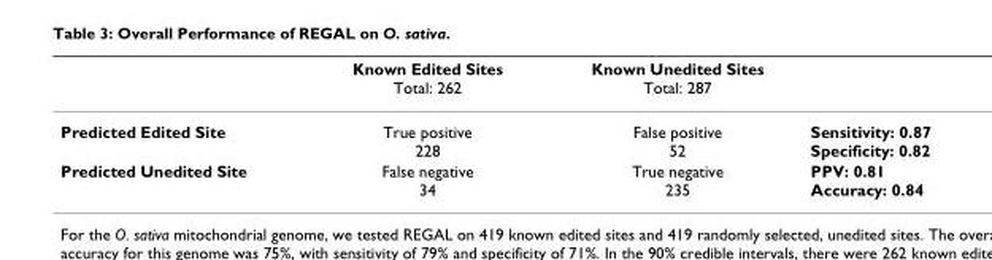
<table><thead><tr><td></td><td>Known Edited Sites Total: 262</td><td>Known Unedited Sites Total: 287</td><td></td></tr></thead><tbody><tr><td>Predicted Edited Site</td><td>True positive 228</td><td>False positive 52</td><td>Sensitivity: 0.87 Specificity: 0.82</td></tr><tr><td>Predicted Unedited Site</td><td>False negative 34</td><td>True negative 235</td><td>PPV: 0.81 Accuracy: 0.84</td></tr></tbody></table>